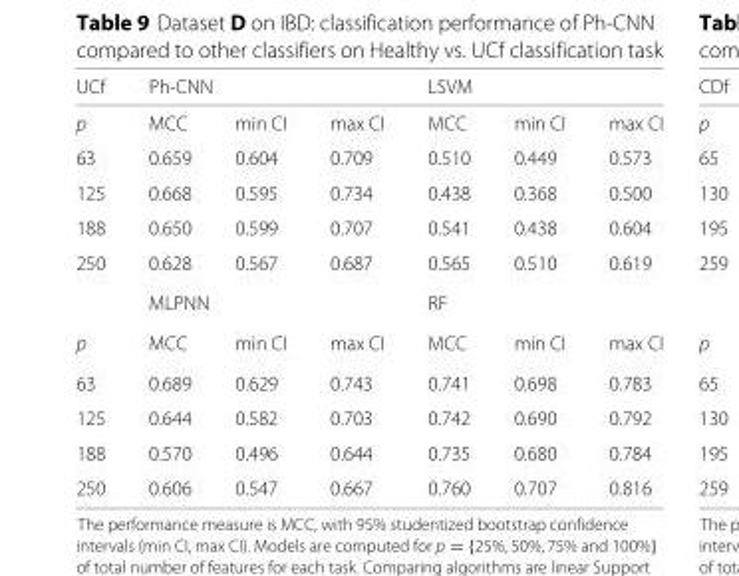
<table><thead><tr><td rowspan="2">UCf p</td><td colspan="3">Ph-CNN</td><td colspan="3">LSVM</td></tr><tr><td>MCC</td><td>min CI</td><td>max CI</td><td>MCC</td><td>min CI</td><td>max CI</td></tr></thead><tbody><tr><td>63</td><td>0.659</td><td>0.604</td><td>0.709</td><td>0.510</td><td>0.449</td><td>0.573</td></tr><tr><td>125</td><td>0.668</td><td>0.595</td><td>0.734</td><td>0.438</td><td>0.368</td><td>0.500</td></tr><tr><td>188</td><td>0.650</td><td>0.599</td><td>0.707</td><td>0.541</td><td>0.438</td><td>0.604</td></tr><tr><td rowspan="2">250</td><td>0.628</td><td>0.567</td><td>0.687</td><td>0.565</td><td>0.510</td><td>0.619</td></tr><tr><td colspan="3">MLPNN</td><td colspan="3">RF</td></tr><tr><td>p</td><td>MCC</td><td>min CI</td><td>max CI</td><td>MCC</td><td>min CI</td><td>max CI</td></tr><tr><td>63</td><td>0.689</td><td>0.629</td><td>0.743</td><td>0.741</td><td>0.698</td><td>0.783</td></tr><tr><td>125</td><td>0.644</td><td>0.582</td><td>0.703</td><td>0.742</td><td>0.690</td><td>0.792</td></tr><tr><td>188</td><td>0.570</td><td>0.496</td><td>0.644</td><td>0.735</td><td>0.680</td><td>0.784</td></tr><tr><td>250</td><td>0.606</td><td>0.547</td><td>0.667</td><td>0.760</td><td>0.707</td><td>0.816</td></tr></tbody></table>